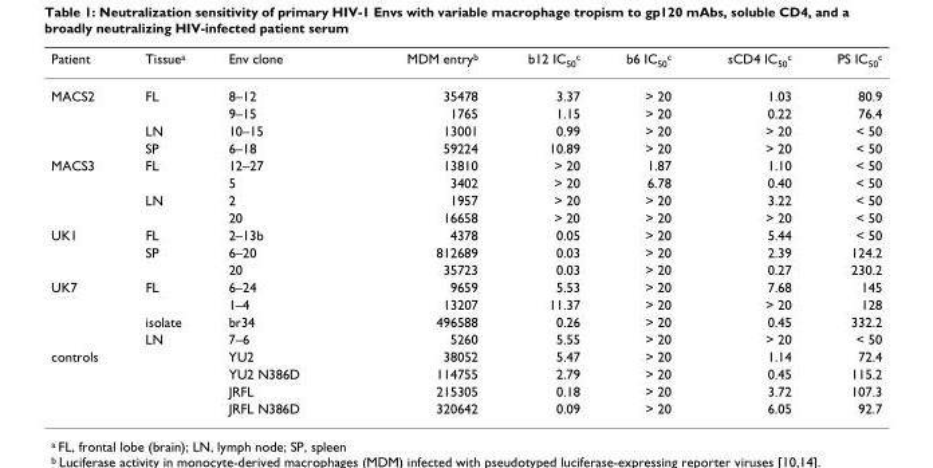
<table><thead><tr><td>Patient</td><td>Tissue<sup>a</sup></td><td>Env clone</td><td>MDM entry<sup>b</sup></td><td>b12 IC<sub>50</sub><sup>c</sup></td><td>b6 IC<sub>50</sub><sup>c</sup></td><td>sCD4 IC<sub>50</sub><sup>c</sup></td><td>PS IC<sub>50</sub><sup>c</sup></td></tr></thead><tbody><tr><td rowspan="4">MACS2</td><td>FL</td><td>8–12</td><td>35478</td><td>3.37</td><td>&gt; 20</td><td>1.03</td><td>80.9</td></tr><tr><td></td><td>9–15</td><td>1765</td><td>1.15</td><td>&gt; 20</td><td>0.22</td><td>76.4</td></tr><tr><td>LN</td><td>10–15</td><td>13001</td><td>0.99</td><td>&gt; 20</td><td>&gt; 20</td><td>&lt; 50</td></tr><tr><td>SP</td><td>6–18</td><td>59224</td><td>10.89</td><td>&gt; 20</td><td>&gt; 20</td><td>&lt; 50</td></tr><tr><td rowspan="4">MACS3</td><td>FL</td><td>12–27</td><td>13810</td><td>&gt; 20</td><td>1.87</td><td>1.10</td><td>&lt; 50</td></tr><tr><td></td><td>5</td><td>3402</td><td>&gt; 20</td><td>6.78</td><td>0.40</td><td>&lt; 50</td></tr><tr><td>LN</td><td>2</td><td>1957</td><td>&gt; 20</td><td>&gt; 20</td><td>3.22</td><td>&lt; 50</td></tr><tr><td></td><td>20</td><td>16658</td><td>&gt; 20</td><td>&gt; 20</td><td>&gt; 20</td><td>&lt; 50</td></tr><tr><td rowspan="3">UK1</td><td>FL</td><td>2–13b</td><td>4378</td><td>0.05</td><td>&gt; 20</td><td>5.44</td><td>&lt; 50</td></tr><tr><td>SP</td><td>6–20</td><td>812689</td><td>0.03</td><td>&gt; 20</td><td>2.39</td><td>124.2</td></tr><tr><td></td><td>20</td><td>35723</td><td>0.03</td><td>&gt; 20</td><td>0.27</td><td>230.2</td></tr><tr><td rowspan="4">UK7</td><td>FL</td><td>6–24</td><td>9659</td><td>5.53</td><td>&gt; 20</td><td>7.68</td><td>145</td></tr><tr><td></td><td>1–4</td><td>13207</td><td>11.37</td><td>&gt; 20</td><td>&gt; 20</td><td>128</td></tr><tr><td>isolate</td><td>br34</td><td>496588</td><td>0.26</td><td>&gt; 20</td><td>0.45</td><td>332.2</td></tr><tr><td>LN</td><td>7–6</td><td>5260</td><td>5.55</td><td>&gt; 20</td><td>&gt; 20</td><td>&lt; 50</td></tr><tr><td rowspan="4">controls</td><td></td><td>YU2</td><td>38052</td><td>5.47</td><td>&gt; 20</td><td>1.14</td><td>72.4</td></tr><tr><td></td><td>YU2 N386D</td><td>114755</td><td>2.79</td><td>&gt; 20</td><td>0.45</td><td>115.2</td></tr><tr><td></td><td>JRFL</td><td>215305</td><td>0.18</td><td>&gt; 20</td><td>3.72</td><td>107.3</td></tr><tr><td></td><td>JRFL N386D</td><td>320642</td><td>0.09</td><td>&gt; 20</td><td>6.05</td><td>92.7</td></tr></tbody></table>